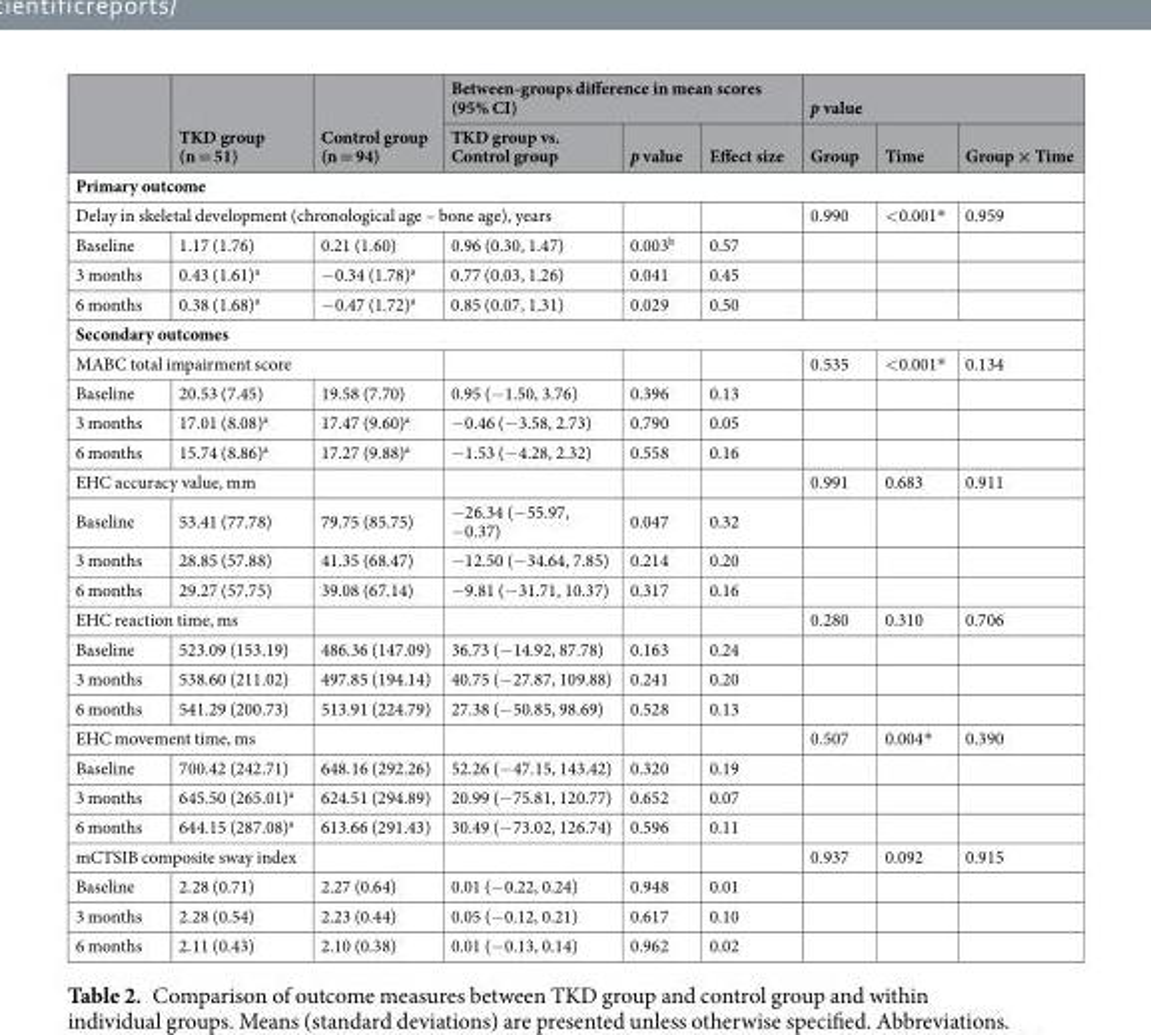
<table><thead><tr><td rowspan="2"></td><td rowspan="2">TKD group (n = 51)</td><td rowspan="2">Control group (n = 94)</td><td colspan="3">Between-groups difference in mean scores (95% CI)</td><td colspan="3">p value</td></tr><tr><td>TKD group vs. Control group</td><td>p value</td><td>Effect size</td><td>Group</td><td>Time</td><td>Group × Time</td></tr></thead><tbody><tr><td colspan="9">Primary outcome</td></tr><tr><td colspan="4">Delay in skeletal development (chronological age – bone age), years</td><td></td><td></td><td>0.990</td><td>&lt;0.001*</td><td>0.959</td></tr><tr><td>Baseline</td><td>1.17 (1.76)</td><td>0.21 (1.60)</td><td>0.96 (0.30, 1.47)</td><td>0.003<sup>b</sup></td><td>0.57</td><td></td><td></td><td></td></tr><tr><td>3 months</td><td>0.43 (1.61)<sup>a</sup></td><td>−0.34 (1.78)<sup>a</sup></td><td>0.77 (0.03, 1.26)</td><td>0.041</td><td>0.45</td><td></td><td></td><td></td></tr><tr><td>6 months</td><td>0.38 (1.68)<sup>a</sup></td><td>−0.47 (1.72)<sup>a</sup></td><td>0.85 (0.07, 1.31)</td><td>0.029</td><td>0.50</td><td></td><td></td><td></td></tr><tr><td colspan="9">Secondary outcomes</td></tr><tr><td colspan="3">MABC total impairment score</td><td></td><td></td><td></td><td>0.535</td><td>&lt;0.001*</td><td>0.134</td></tr><tr><td>Baseline</td><td>20.53 (7.45)</td><td>19.58 (7.70)</td><td>0.95 (−1.50, 3.76)</td><td>0.396</td><td>0.13</td><td></td><td></td><td></td></tr><tr><td>3 months</td><td>17.01 (8.08)<sup>a</sup></td><td>17.47 (9.60)<sup>a</sup></td><td>−0.46 (−3.58, 2.73)</td><td>0.790</td><td>0.05</td><td></td><td></td><td></td></tr><tr><td>6 months</td><td>15.74 (8.86)<sup>a</sup></td><td>17.27 (9.88)<sup>a</sup></td><td>−1.53 (−4.28, 2.32)</td><td>0.558</td><td>0.16</td><td></td><td></td><td></td></tr><tr><td colspan="2">EHC accuracy value, mm</td><td></td><td></td><td></td><td></td><td>0.991</td><td>0.683</td><td>0.911</td></tr><tr><td>Baseline</td><td>53.41 (77.78)</td><td>79.75 (85.75)</td><td>−26.34 (−55.97, −0.37)</td><td>0.047</td><td>0.32</td><td></td><td></td><td></td></tr><tr><td>3 months</td><td>28.85 (57.88)</td><td>41.35 (68.47)</td><td>−12.50 (−34.64, 7.85)</td><td>0.214</td><td>0.20</td><td></td><td></td><td></td></tr><tr><td>6 months</td><td>29.27 (57.75)</td><td>39.08 (67.14)</td><td>−9.81 (−31.71, 10.37)</td><td>0.317</td><td>0.16</td><td></td><td></td><td></td></tr><tr><td colspan="2">EHC reaction time, ms</td><td></td><td></td><td></td><td></td><td>0.280</td><td>0.310</td><td>0.706</td></tr><tr><td>Baseline</td><td>523.09 (153.19)</td><td>486.36 (147.09)</td><td>36.73 (−14.92, 87.78)</td><td>0.163</td><td>0.24</td><td></td><td></td><td></td></tr><tr><td>3 months</td><td>538.60 (211.02)</td><td>497.85 (194.14)</td><td>40.75 (−27.87, 109.88)</td><td>0.241</td><td>0.20</td><td></td><td></td><td></td></tr><tr><td>6 months</td><td>541.29 (200.73)</td><td>513.91 (224.79)</td><td>27.38 (−50.85, 98.69)</td><td>0.528</td><td>0.13</td><td></td><td></td><td></td></tr><tr><td colspan="2">EHC movement time, ms</td><td></td><td></td><td></td><td></td><td>0.507</td><td>0.004*</td><td>0.390</td></tr><tr><td>Baseline</td><td>700.42 (242.71)</td><td>648.16 (292.26)</td><td>52.26 (−47.15, 143.42)</td><td>0.320</td><td>0.19</td><td></td><td></td><td></td></tr><tr><td>3 months</td><td>645.50 (265.01)<sup>a</sup></td><td>624.51 (294.89)</td><td>20.99 (−75.81, 120.77)</td><td>0.652</td><td>0.07</td><td></td><td></td><td></td></tr><tr><td>6 months</td><td>644.15 (287.08)<sup>a</sup></td><td>613.66 (291.43)</td><td>30.49 (−73.02, 126.74)</td><td>0.596</td><td>0.11</td><td></td><td></td><td></td></tr><tr><td colspan="2">mCTSIB composite sway index</td><td></td><td></td><td></td><td></td><td>0.937</td><td>0.092</td><td>0.915</td></tr><tr><td>Baseline</td><td>2.28 (0.71)</td><td>2.27 (0.64)</td><td>0.01 (−0.22, 0.24)</td><td>0.948</td><td>0.01</td><td></td><td></td><td></td></tr><tr><td>3 months</td><td>2.28 (0.54)</td><td>2.23 (0.44)</td><td>0.05 (−0.12, 0.21)</td><td>0.617</td><td>0.10</td><td></td><td></td><td></td></tr><tr><td>6 months</td><td>2.11 (0.43)</td><td>2.10 (0.38)</td><td>0.01 (−0.13, 0.14)</td><td>0.962</td><td>0.02</td><td></td><td></td><td></td></tr></tbody></table>